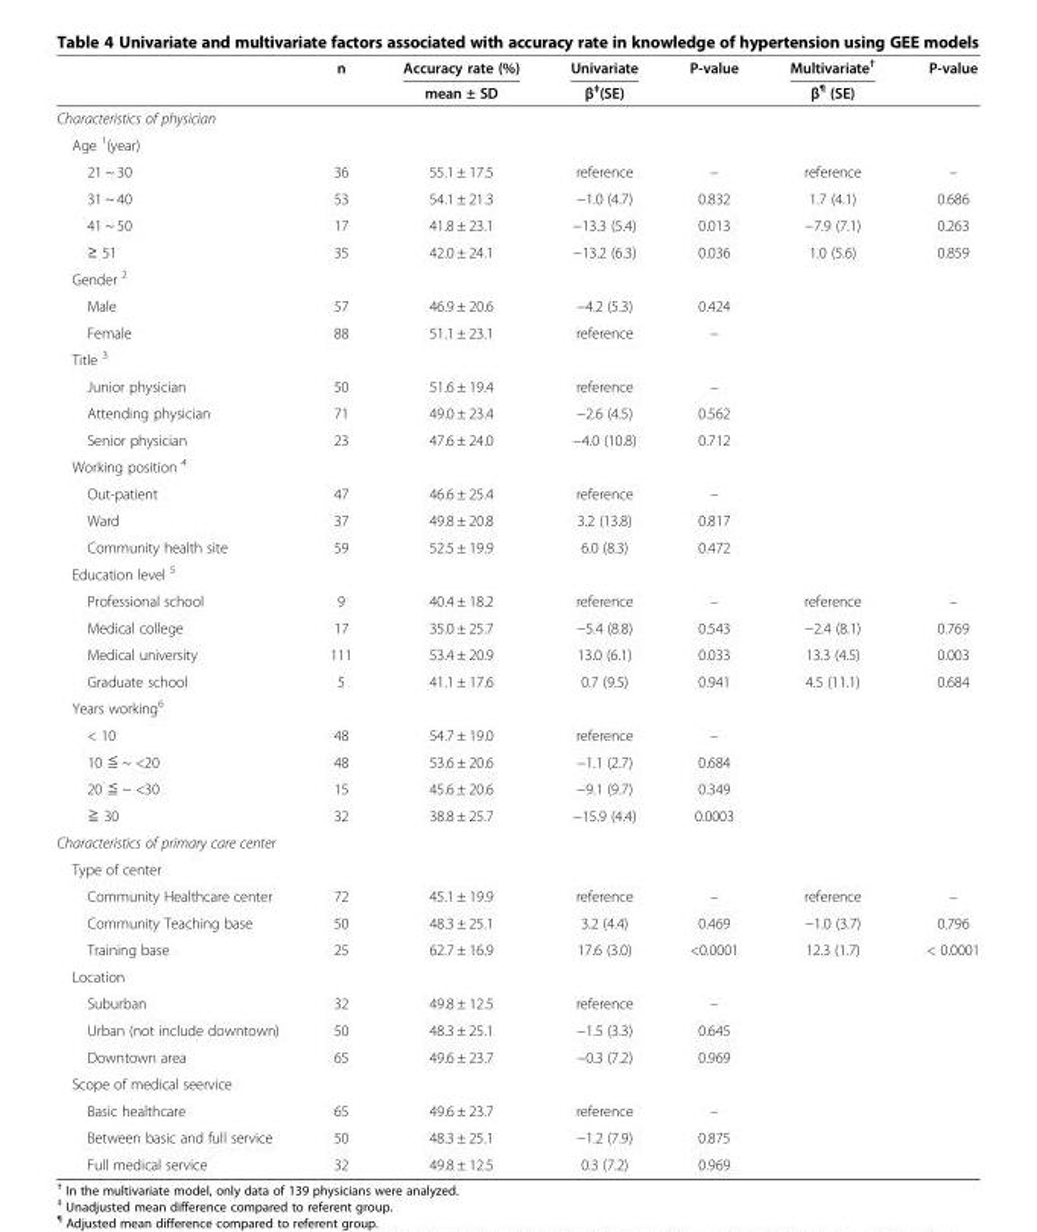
<table><thead><tr><td rowspan="2"></td><td rowspan="2">n</td><td rowspan="2">Accuracy rate (%) mean ± SD</td><td rowspan="2">Univariate β<sup>‡</sup>(SE)</td><td rowspan="2">P-value</td><td rowspan="2">Multivariate<sup>†</sup> β<sup>¶</sup> (SE)</td><td rowspan="2">P-value</td></tr><tr></tr></thead><tbody><tr><td colspan="7">Characteristics of physician</td></tr><tr><td colspan="7">Age <sup>1</sup>(year)</td></tr><tr><td>21 ~ 30</td><td>36</td><td>55.1 ± 17.5</td><td>reference</td><td>–</td><td>reference</td><td>–</td></tr><tr><td>31 ~ 40</td><td>53</td><td>54.1 ± 21.3</td><td>−1.0 (4.7)</td><td>0.832</td><td>1.7 (4.1)</td><td>0.686</td></tr><tr><td>41 ~ 50</td><td>17</td><td>41.8 ± 23.1</td><td>−13.3 (5.4)</td><td>0.013</td><td>−7.9 (7.1)</td><td>0.263</td></tr><tr><td>≥ 51</td><td>35</td><td>42.0 ± 24.1</td><td>−13.2 (6.3)</td><td>0.036</td><td>1.0 (5.6)</td><td>0.859</td></tr><tr><td colspan="7">Gender <sup>2</sup></td></tr><tr><td>Male</td><td>57</td><td>46.9 ± 20.6</td><td>−4.2 (5.3)</td><td>0.424</td><td></td><td></td></tr><tr><td>Female</td><td>88</td><td>51.1 ± 23.1</td><td>reference</td><td>–</td><td></td><td></td></tr><tr><td colspan="7">Title <sup>3</sup></td></tr><tr><td>Junior physician</td><td>50</td><td>51.6 ± 19.4</td><td>reference</td><td>–</td><td></td><td></td></tr><tr><td>Attending physician</td><td>71</td><td>49.0 ± 23.4</td><td>−2.6 (4.5)</td><td>0.562</td><td></td><td></td></tr><tr><td>Senior physician</td><td>23</td><td>47.6 ± 24.0</td><td>−4.0 (10.8)</td><td>0.712</td><td></td><td></td></tr><tr><td colspan="7">Working position <sup>4</sup></td></tr><tr><td>Out-patient</td><td>47</td><td>46.6 ± 25.4</td><td>reference</td><td>–</td><td></td><td></td></tr><tr><td>Ward</td><td>37</td><td>49.8 ± 20.8</td><td>3.2 (13.8)</td><td>0.817</td><td></td><td></td></tr><tr><td>Community health site</td><td>59</td><td>52.5 ± 19.9</td><td>6.0 (8.3)</td><td>0.472</td><td></td><td></td></tr><tr><td colspan="7">Education level <sup>5</sup></td></tr><tr><td>Professional school</td><td>9</td><td>40.4 ± 18.2</td><td>reference</td><td>–</td><td>reference</td><td>–</td></tr><tr><td>Medical college</td><td>17</td><td>35.0 ± 25.7</td><td>−5.4 (8.8)</td><td>0.543</td><td>−2.4 (8.1)</td><td>0.769</td></tr><tr><td>Medical university</td><td>111</td><td>53.4 ± 20.9</td><td>13.0 (6.1)</td><td>0.033</td><td>13.3 (4.5)</td><td>0.003</td></tr><tr><td>Graduate school</td><td>5</td><td>41.1 ± 17.6</td><td>0.7 (9.5)</td><td>0.941</td><td>4.5 (11.1)</td><td>0.684</td></tr><tr><td colspan="7">Years working<sup>6</sup></td></tr><tr><td>&lt; 10</td><td>48</td><td>54.7 ± 19.0</td><td>reference</td><td>–</td><td></td><td></td></tr><tr><td>10 ≦ ~ &lt;20</td><td>48</td><td>53.6 ± 20.6</td><td>−1.1 (2.7)</td><td>0.684</td><td></td><td></td></tr><tr><td>20 ≦ ~ &lt;30</td><td>15</td><td>45.6 ± 20.6</td><td>−9.1 (9.7)</td><td>0.349</td><td></td><td></td></tr><tr><td>≧ 30</td><td>32</td><td>38.8 ± 25.7</td><td>−15.9 (4.4)</td><td>0.0003</td><td></td><td></td></tr><tr><td colspan="7">Characteristics of primary care center</td></tr><tr><td colspan="7">Type of center</td></tr><tr><td>Community Healthcare center</td><td>72</td><td>45.1 ± 19.9</td><td>reference</td><td>–</td><td>reference</td><td>–</td></tr><tr><td>Community Teaching base</td><td>50</td><td>48.3 ± 25.1</td><td>3.2 (4.4)</td><td>0.469</td><td>−1.0 (3.7)</td><td>0.796</td></tr><tr><td>Training base</td><td>25</td><td>62.7 ± 16.9</td><td>17.6 (3.0)</td><td>&lt;0.0001</td><td>12.3 (1.7)</td><td>&lt; 0.0001</td></tr><tr><td colspan="7">Location</td></tr><tr><td>Suburban</td><td>32</td><td>49.8 ± 12.5</td><td>reference</td><td>–</td><td></td><td></td></tr><tr><td>Urban (not include downtown)</td><td>50</td><td>48.3 ± 25.1</td><td>−1.5 (3.3)</td><td>0.645</td><td></td><td></td></tr><tr><td>Downtown area</td><td>65</td><td>49.6 ± 23.7</td><td>−0.3 (7.2)</td><td>0.969</td><td></td><td></td></tr><tr><td colspan="7">Scope of medical seervice</td></tr><tr><td>Basic healthcare</td><td>65</td><td>49.6 ± 23.7</td><td>reference</td><td>–</td><td></td><td></td></tr><tr><td>Between basic and full service</td><td>50</td><td>48.3 ± 25.1</td><td>−1.2 (7.9)</td><td>0.875</td><td></td><td></td></tr><tr><td>Full medical service</td><td>32</td><td>49.8 ± 12.5</td><td>0.3 (7.2)</td><td>0.969</td><td></td><td></td></tr></tbody></table>